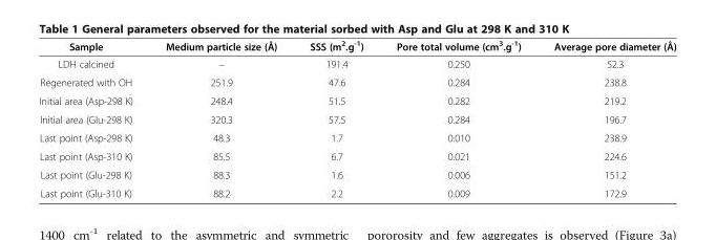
<table><thead><tr><td>Sample</td><td>Medium particle size (Å)</td><td>SSS (m<sup>2</sup>.g<sup>-1</sup>)</td><td>Pore total volume (cm<sup>3</sup>.g<sup>-1</sup>)</td><td>Average pore diameter (Å)</td></tr></thead><tbody><tr><td>LDH calcined</td><td>–</td><td>191.4</td><td>0.250</td><td>52.3</td></tr><tr><td>Regenerated with OH</td><td>251.9</td><td>47.6</td><td>0.284</td><td>238.8</td></tr><tr><td>Initial area (Asp-298 K)</td><td>248.4</td><td>51.5</td><td>0.282</td><td>219.2</td></tr><tr><td>Initial area (Glu-298 K)</td><td>320.3</td><td>57.5</td><td>0.284</td><td>196.7</td></tr><tr><td>Last point (Asp-298 K)</td><td>48.3</td><td>1.7</td><td>0.010</td><td>238.9</td></tr><tr><td>Last point (Asp-310 K)</td><td>85.5</td><td>6.7</td><td>0.021</td><td>224.6</td></tr><tr><td>Last point (Glu-298 K)</td><td>88.3</td><td>1.6</td><td>0.006</td><td>151.2</td></tr><tr><td>Last point (Glu-310 K)</td><td>88.2</td><td>2.2</td><td>0.009</td><td>172.9</td></tr></tbody></table>